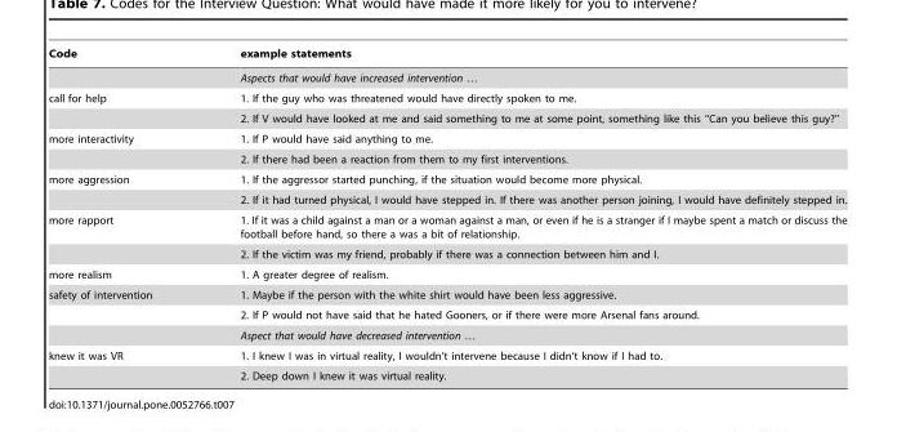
<table><thead><tr><td>Code</td><td>example statements</td></tr></thead><tbody><tr><td></td><td>Aspects that would have increased intervention …</td></tr><tr><td rowspan="2">call for help</td><td>1. If the guy who was threatened would have directly spoken to me.</td></tr><tr><td>2. If V would have looked at me and said something to me at some point, something like this ‘‘Can you believe this guy?’’</td></tr><tr><td rowspan="2">more interactivity</td><td>1. If P would have said anything to me.</td></tr><tr><td>2. If there had been a reaction from them to my first interventions.</td></tr><tr><td rowspan="2">more aggression</td><td>1. If the aggressor started punching, if the situation would become more physical.</td></tr><tr><td>2. If it had turned physical, I would have stepped in. If there was another person joining, I would have definitely stepped in.</td></tr><tr><td rowspan="2">more rapport</td><td>1. If it was a child against a man or a woman against a man, or even if he is a stranger if I maybe spent a match or discuss the football before hand, so there a was a bit of relationship.</td></tr><tr><td>2. If the victim was my friend, probably if there was a connection between him and I.</td></tr><tr><td>more realism</td><td>1. A greater degree of realism.</td></tr><tr><td rowspan="3">safety of intervention</td><td>1. Maybe if the person with the white shirt would have been less aggressive.</td></tr><tr><td>2. If P would not have said that he hated Gooners, or if there were more Arsenal fans around.</td></tr><tr><td>Aspect that would have decreased intervention …</td></tr><tr><td rowspan="2">knew it was VR</td><td>1. I knew I was in virtual reality, I wouldn’t intervene because I didn’t know if I had to.</td></tr><tr><td>2. Deep down I knew it was virtual reality.</td></tr></tbody></table>